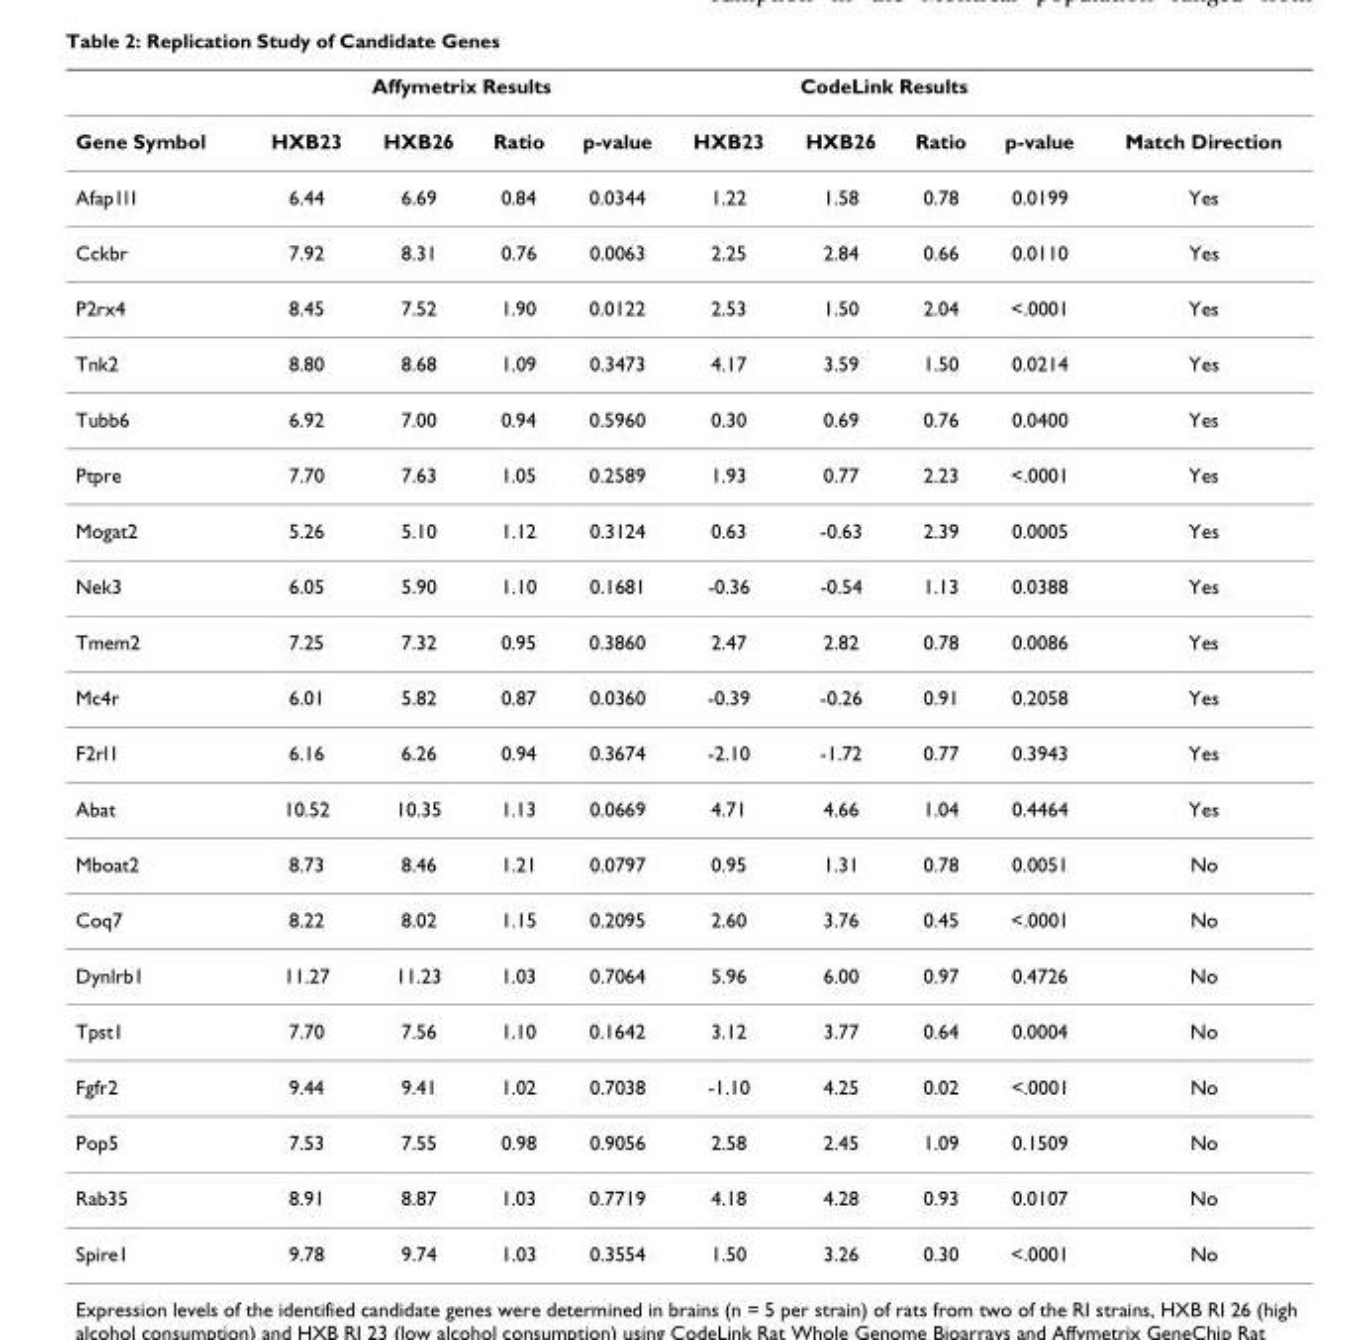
<table><thead><tr><td rowspan="2">Gene Symbol</td><td colspan="4">Affymetrix Results</td><td colspan="4">CodeLink Results</td><td rowspan="2">Match Direction</td></tr><tr><td>HXB23</td><td>HXB26</td><td>Ratio</td><td>p-value</td><td>HXB23</td><td>HXB26</td><td>Ratio</td><td>p-value</td></tr></thead><tbody><tr><td>Afap1l1</td><td>6.44</td><td>6.69</td><td>0.84</td><td>0.0344</td><td>1.22</td><td>1.58</td><td>0.78</td><td>0.0199</td><td>Yes</td></tr><tr><td>Cckbr</td><td>7.92</td><td>8.31</td><td>0.76</td><td>0.0063</td><td>2.25</td><td>2.84</td><td>0.66</td><td>0.0110</td><td>Yes</td></tr><tr><td>P2rx4</td><td>8.45</td><td>7.52</td><td>1.90</td><td>0.0122</td><td>2.53</td><td>1.50</td><td>2.04</td><td>&lt;.0001</td><td>Yes</td></tr><tr><td>Tnk2</td><td>8.80</td><td>8.68</td><td>1.09</td><td>0.3473</td><td>4.17</td><td>3.59</td><td>1.50</td><td>0.0214</td><td>Yes</td></tr><tr><td>Tubb6</td><td>6.92</td><td>7.00</td><td>0.94</td><td>0.5960</td><td>0.30</td><td>0.69</td><td>0.76</td><td>0.0400</td><td>Yes</td></tr><tr><td>Ptpre</td><td>7.70</td><td>7.63</td><td>1.05</td><td>0.2589</td><td>1.93</td><td>0.77</td><td>2.23</td><td>&lt;.0001</td><td>Yes</td></tr><tr><td>Mogat2</td><td>5.26</td><td>5.10</td><td>1.12</td><td>0.3124</td><td>0.63</td><td>-0.63</td><td>2.39</td><td>0.0005</td><td>Yes</td></tr><tr><td>Nek3</td><td>6.05</td><td>5.90</td><td>1.10</td><td>0.1681</td><td>-0.36</td><td>-0.54</td><td>1.13</td><td>0.0388</td><td>Yes</td></tr><tr><td>Tmem2</td><td>7.25</td><td>7.32</td><td>0.95</td><td>0.3860</td><td>2.47</td><td>2.82</td><td>0.78</td><td>0.0086</td><td>Yes</td></tr><tr><td>Mc4r</td><td>6.01</td><td>5.82</td><td>0.87</td><td>0.0360</td><td>-0.39</td><td>-0.26</td><td>0.91</td><td>0.2058</td><td>Yes</td></tr><tr><td>F2rl1</td><td>6.16</td><td>6.26</td><td>0.94</td><td>0.3674</td><td>-2.10</td><td>-1.72</td><td>0.77</td><td>0.3943</td><td>Yes</td></tr><tr><td>Abat</td><td>10.52</td><td>10.35</td><td>1.13</td><td>0.0669</td><td>4.71</td><td>4.66</td><td>1.04</td><td>0.4464</td><td>Yes</td></tr><tr><td>Mboat2</td><td>8.73</td><td>8.46</td><td>1.21</td><td>0.0797</td><td>0.95</td><td>1.31</td><td>0.78</td><td>0.0051</td><td>No</td></tr><tr><td>Coq7</td><td>8.22</td><td>8.02</td><td>1.15</td><td>0.2095</td><td>2.60</td><td>3.76</td><td>0.45</td><td>&lt;.0001</td><td>No</td></tr><tr><td>Dynlrb1</td><td>11.27</td><td>11.23</td><td>1.03</td><td>0.7064</td><td>5.96</td><td>6.00</td><td>0.97</td><td>0.4726</td><td>No</td></tr><tr><td>Tpst1</td><td>7.70</td><td>7.56</td><td>1.10</td><td>0.1642</td><td>3.12</td><td>3.77</td><td>0.64</td><td>0.0004</td><td>No</td></tr><tr><td>Fgfr2</td><td>9.44</td><td>9.41</td><td>1.02</td><td>0.7038</td><td>-1.10</td><td>4.25</td><td>0.02</td><td>&lt;.0001</td><td>No</td></tr><tr><td>Pop5</td><td>7.53</td><td>7.55</td><td>0.98</td><td>0.9056</td><td>2.58</td><td>2.45</td><td>1.09</td><td>0.1509</td><td>No</td></tr><tr><td>Rab35</td><td>8.91</td><td>8.87</td><td>1.03</td><td>0.7719</td><td>4.18</td><td>4.28</td><td>0.93</td><td>0.0107</td><td>No</td></tr><tr><td>Spire1</td><td>9.78</td><td>9.74</td><td>1.03</td><td>0.3554</td><td>1.50</td><td>3.26</td><td>0.30</td><td>&lt;.0001</td><td>No</td></tr></tbody></table>